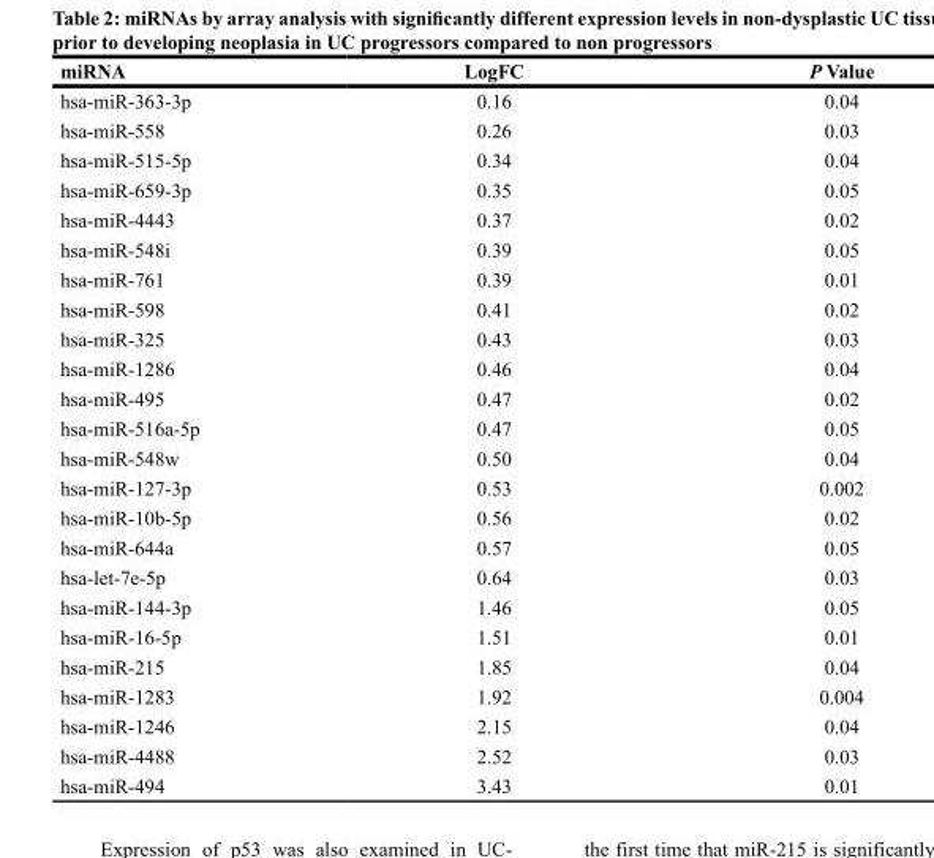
<table><thead><tr><td>miRNA</td><td>LogFC</td><td>P Value</td></tr></thead><tbody><tr><td>hsa-miR-363-3p</td><td>0.16</td><td>0.04</td></tr><tr><td>hsa-miR-558</td><td>0.26</td><td>0.03</td></tr><tr><td>hsa-miR-515-5p</td><td>0.34</td><td>0.04</td></tr><tr><td>hsa-miR-659-3p</td><td>0.35</td><td>0.05</td></tr><tr><td>hsa-miR-4443</td><td>0.37</td><td>0.02</td></tr><tr><td>hsa-miR-548i</td><td>0.39</td><td>0.05</td></tr><tr><td>hsa-miR-761</td><td>0.39</td><td>0.01</td></tr><tr><td>hsa-miR-598</td><td>0.41</td><td>0.02</td></tr><tr><td>hsa-miR-325</td><td>0.43</td><td>0.03</td></tr><tr><td>hsa-miR-1286</td><td>0.46</td><td>0.04</td></tr><tr><td>hsa-miR-495</td><td>0.47</td><td>0.02</td></tr><tr><td>hsa-miR-516a-5p</td><td>0.47</td><td>0.05</td></tr><tr><td>hsa-miR-548w</td><td>0.50</td><td>0.04</td></tr><tr><td>hsa-miR-127-3p</td><td>0.53</td><td>0.002</td></tr><tr><td>hsa-miR-10b-5p</td><td>0.56</td><td>0.02</td></tr><tr><td>hsa-miR-644a</td><td>0.57</td><td>0.05</td></tr><tr><td>hsa-let-7e-5p</td><td>0.64</td><td>0.03</td></tr><tr><td>hsa-miR-144-3p</td><td>1.46</td><td>0.05</td></tr><tr><td>hsa-miR-16-5p</td><td>1.51</td><td>0.01</td></tr><tr><td>hsa-miR-215</td><td>1.85</td><td>0.04</td></tr><tr><td>hsa-miR-1283</td><td>1.92</td><td>0.004</td></tr><tr><td>hsa-miR-1246</td><td>2.15</td><td>0.04</td></tr><tr><td>hsa-miR-4488</td><td>2.52</td><td>0.03</td></tr><tr><td>hsa-miR-494</td><td>3.43</td><td>0.01</td></tr></tbody></table>